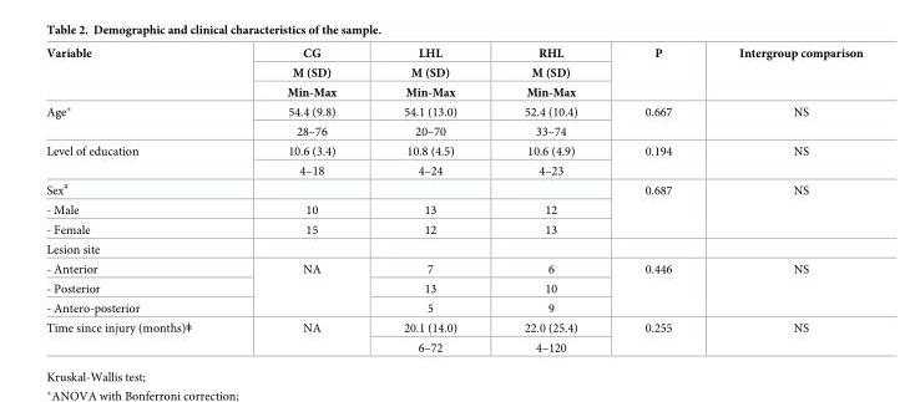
<table><thead><tr><td rowspan="3">Variable</td><td rowspan="3">CG M (SD) Min-Max</td><td rowspan="3">LHL M (SD) Min-Max</td><td rowspan="3">RHL M (SD) Min-Max</td><td rowspan="3">P</td><td rowspan="3">Intergroup comparison</td></tr><tr></tr><tr></tr></thead><tbody><tr><td rowspan="2">Age*</td><td>54.4 (9.8)</td><td>54.1 (13.0)</td><td>52.4 (10.4)</td><td rowspan="2">0.667</td><td rowspan="2">NS</td></tr><tr><td>28–76</td><td>20–70</td><td>33–74</td></tr><tr><td rowspan="2">Level of education</td><td>10.6 (3.4)</td><td>10.8 (4.5)</td><td>10.6 (4.9)</td><td rowspan="2">0.194</td><td rowspan="2">NS</td></tr><tr><td>4–18</td><td>4–24</td><td>4–23</td></tr><tr><td colspan="4">Sex<sup>#</sup></td><td rowspan="3">0.687</td><td rowspan="3">NS</td></tr><tr><td>- Male</td><td>10</td><td>13</td><td>12</td></tr><tr><td>- Female</td><td>15</td><td>12</td><td>13</td></tr><tr><td colspan="6">Lesion site</td></tr><tr><td>- Anterior</td><td rowspan="3">NA</td><td>7</td><td>6</td><td rowspan="3">0.446</td><td rowspan="3">NS</td></tr><tr><td>- Posterior</td><td>13</td><td>10</td></tr><tr><td>- Antero-posterior</td><td>5</td><td>9</td></tr><tr><td rowspan="2">Time since injury (months)ǂ</td><td rowspan="2">NA</td><td>20.1 (14.0)</td><td>22.0 (25.4)</td><td rowspan="2">0.255</td><td rowspan="2">NS</td></tr><tr><td>6–72</td><td>4–120</td></tr></tbody></table>